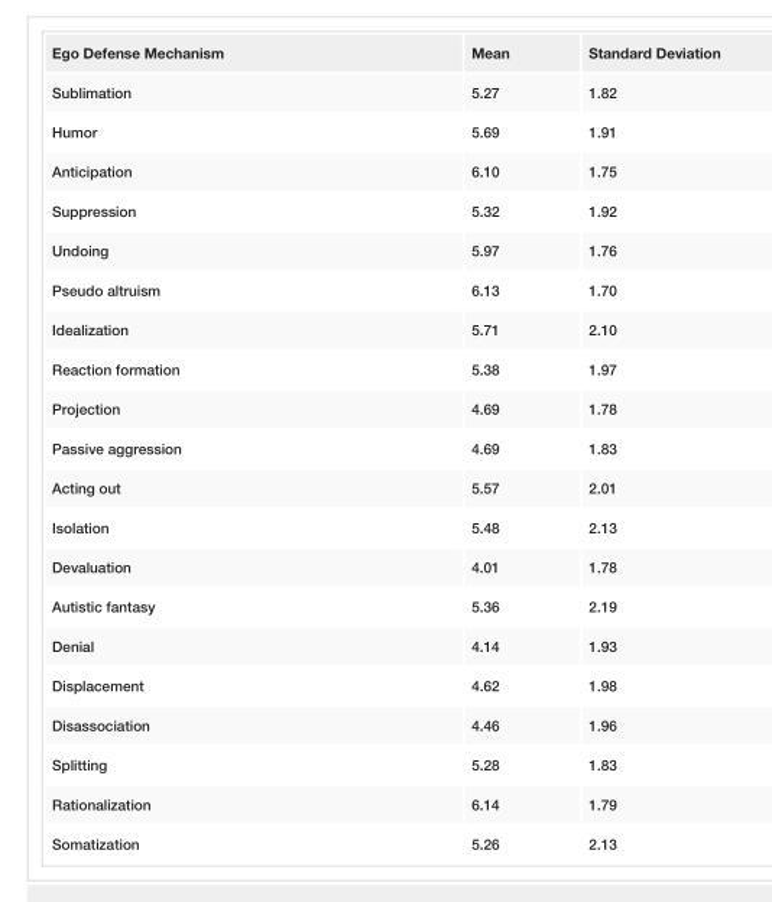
<table><tbody><tr><td>Ego Defense Mechanism</td><td>Mean</td><td>Standard Deviation</td></tr><tr><td>Sublimation</td><td>5.27</td><td>1.82</td></tr><tr><td>Humor</td><td>5.69</td><td>1.91</td></tr><tr><td>Anticipation</td><td>6.10</td><td>1.75</td></tr><tr><td>Suppression</td><td>5.32</td><td>1.92</td></tr><tr><td>Undoing</td><td>5.97</td><td>1.76</td></tr><tr><td>Pseudo altruism</td><td>6.13</td><td>1.70</td></tr><tr><td>Idealization</td><td>5.71</td><td>2.10</td></tr><tr><td>Reaction formation</td><td>5.38</td><td>1.97</td></tr><tr><td>Projection</td><td>4.69</td><td>1.78</td></tr><tr><td>Passive aggression</td><td>4.69</td><td>1.83</td></tr><tr><td>Acting out</td><td>5.57</td><td>2.01</td></tr><tr><td>Isolation</td><td>5.48</td><td>2.13</td></tr><tr><td>Devaluation</td><td>4.01</td><td>1.78</td></tr><tr><td>Autistic fantasy</td><td>5.36</td><td>2.19</td></tr><tr><td>Denial</td><td>4.14</td><td>1.93</td></tr><tr><td>Displacement</td><td>4.62</td><td>1.98</td></tr><tr><td>Disassociation</td><td>4.46</td><td>1.96</td></tr><tr><td>Splitting</td><td>5.28</td><td>1.83</td></tr><tr><td>Rationalization</td><td>6.14</td><td>1.79</td></tr><tr><td>Somatization</td><td>5.26</td><td>2.13</td></tr></tbody></table>